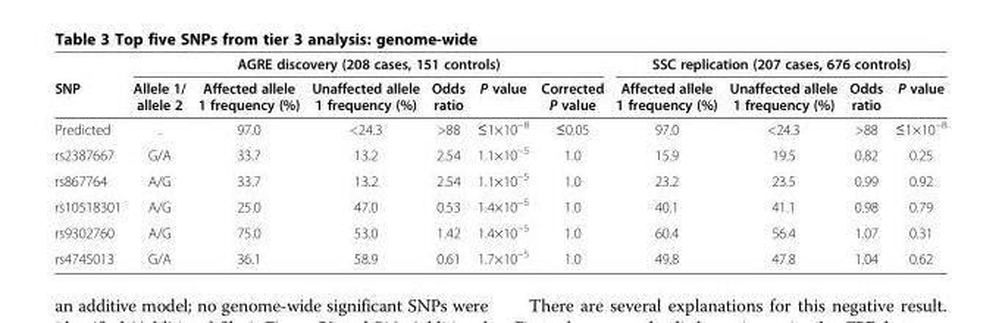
<table><thead><tr><td rowspan="2">SNP</td><td colspan="6">AGRE discovery (208 cases, 151 controls)</td><td colspan="4">SSC replication (207 cases, 676 controls)</td></tr><tr><td>Allele 1/ allele 2</td><td>Affected allele 1 frequency (%)</td><td>Unaffected allele 1 frequency (%)</td><td>Odds ratio</td><td>P value</td><td>Corrected P value</td><td>Affected allele 1 frequency (%)</td><td>Unaffected allele 1 frequency (%)</td><td>Odds ratio</td><td>P value</td></tr></thead><tbody><tr><td>Predicted</td><td>.</td><td>97.0</td><td>&lt;24.3</td><td>&gt;88</td><td>≤1×10<sup>−8</sup></td><td>≤0.05</td><td>97.0</td><td>&lt;24.3</td><td>&gt;88</td><td>≤1×10<sup>−8</sup></td></tr><tr><td>rs2387667</td><td>G/A</td><td>33.7</td><td>13.2</td><td>2.54</td><td>1.1×10<sup>−5</sup></td><td>1.0</td><td>15.9</td><td>19.5</td><td>0.82</td><td>0.25</td></tr><tr><td>rs867764</td><td>A/G</td><td>33.7</td><td>13.2</td><td>2.54</td><td>1.1×10<sup>−5</sup></td><td>1.0</td><td>23.2</td><td>23.5</td><td>0.99</td><td>0.92</td></tr><tr><td>rs10518301</td><td>A/G</td><td>25.0</td><td>47.0</td><td>0.53</td><td>1.4×10<sup>−5</sup></td><td>1.0</td><td>40.1</td><td>41.1</td><td>0.98</td><td>0.79</td></tr><tr><td>rs9302760</td><td>A/G</td><td>75.0</td><td>53.0</td><td>1.42</td><td>1.4×10<sup>−5</sup></td><td>1.0</td><td>60.4</td><td>56.4</td><td>1.07</td><td>0.31</td></tr><tr><td>rs4745013</td><td>G/A</td><td>36.1</td><td>58.9</td><td>0.61</td><td>1.7×10<sup>−5</sup></td><td>1.0</td><td>49.8</td><td>47.8</td><td>1.04</td><td>0.62</td></tr></tbody></table>